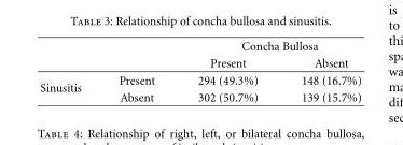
<table><thead><tr><td rowspan="2"></td><td rowspan="2"></td><td colspan="2">Concha Bullosa</td></tr><tr><td>Present</td><td>Absent</td></tr></thead><tbody><tr><td rowspan="2">Sinusitis</td><td>Present</td><td>294 (49.3%)</td><td>148 (16.7%)</td></tr><tr><td>Absent</td><td>302 (50.7%)</td><td>139 (15.7%)</td></tr></tbody></table>